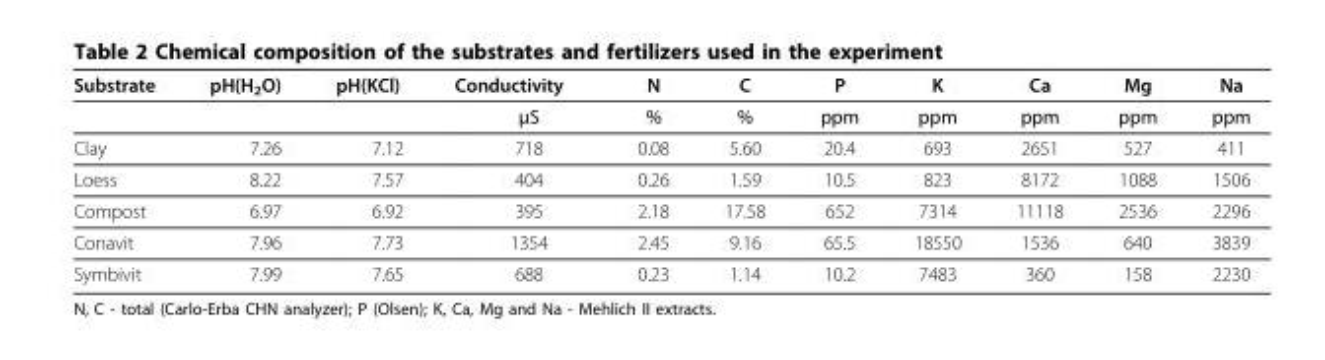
<table><thead><tr><td>Substrate</td><td>pH(H<sub>2</sub>O)</td><td>pH(KCl)</td><td>Conductivity</td><td>N</td><td>C</td><td>P</td><td>K</td><td>Ca</td><td>Mg</td><td>Na</td></tr></thead><tbody><tr><td></td><td></td><td></td><td>μS</td><td>%</td><td>%</td><td>ppm</td><td>ppm</td><td>ppm</td><td>ppm</td><td>ppm</td></tr><tr><td>Clay</td><td>7.26</td><td>7.12</td><td>718</td><td>0.08</td><td>5.60</td><td>20.4</td><td>693</td><td>2651</td><td>527</td><td>411</td></tr><tr><td>Loess</td><td>8.22</td><td>7.57</td><td>404</td><td>0.26</td><td>1.59</td><td>10.5</td><td>823</td><td>8172</td><td>1088</td><td>1506</td></tr><tr><td>Compost</td><td>6.97</td><td>6.92</td><td>395</td><td>2.18</td><td>17.58</td><td>652</td><td>7314</td><td>11118</td><td>2536</td><td>2296</td></tr><tr><td>Conavit</td><td>7.96</td><td>7.73</td><td>1354</td><td>2.45</td><td>9.16</td><td>65.5</td><td>18550</td><td>1536</td><td>640</td><td>3839</td></tr><tr><td>Symbivit</td><td>7.99</td><td>7.65</td><td>688</td><td>0.23</td><td>1.14</td><td>10.2</td><td>7483</td><td>360</td><td>158</td><td>2230</td></tr></tbody></table>